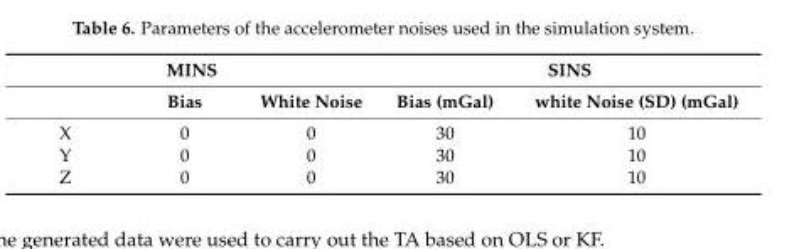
<table><thead><tr><td colspan="3">MINS</td><td colspan="2">SINS</td></tr><tr><td></td><td>Bias</td><td>White Noise</td><td>Bias (mGal)</td><td>white Noise (SD) (mGal)</td></tr></thead><tbody><tr><td>X</td><td>0</td><td>0</td><td>30</td><td>10</td></tr><tr><td>Y</td><td>0</td><td>0</td><td>30</td><td>10</td></tr><tr><td>Z</td><td>0</td><td>0</td><td>30</td><td>10</td></tr></tbody></table>